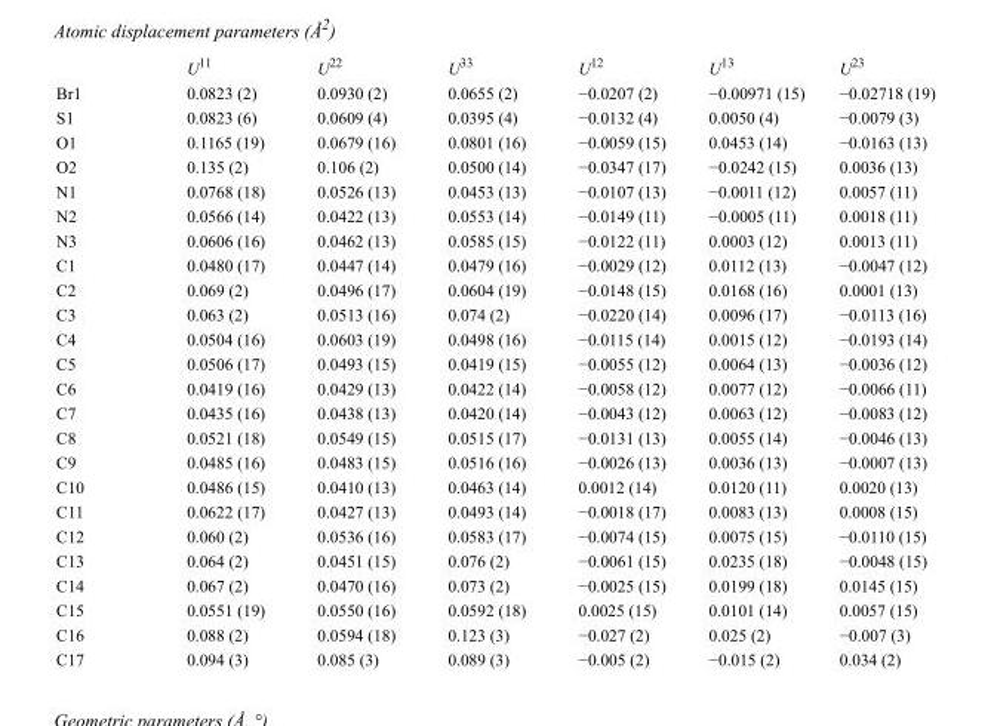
<table><thead><tr><td></td><td>U<sup>11</sup></td><td>U<sup>22</sup></td><td>U<sup>33</sup></td><td>U<sup>12</sup></td><td>U<sup>13</sup></td><td>U<sup>23</sup></td></tr></thead><tbody><tr><td>Br1</td><td>0.0823 (2)</td><td>0.0930 (2)</td><td>0.0655 (2)</td><td>−0.0207 (2)</td><td>−0.00971 (15)</td><td>−0.02718 (19)</td></tr><tr><td>S1</td><td>0.0823 (6)</td><td>0.0609 (4)</td><td>0.0395 (4)</td><td>−0.0132 (4)</td><td>0.0050 (4)</td><td>−0.0079 (3)</td></tr><tr><td>O1</td><td>0.1165 (19)</td><td>0.0679 (16)</td><td>0.0801 (16)</td><td>−0.0059 (15)</td><td>0.0453 (14)</td><td>−0.0163 (13)</td></tr><tr><td>O2</td><td>0.135 (2)</td><td>0.106 (2)</td><td>0.0500 (14)</td><td>−0.0347 (17)</td><td>−0.0242 (15)</td><td>0.0036 (13)</td></tr><tr><td>N1</td><td>0.0768 (18)</td><td>0.0526 (13)</td><td>0.0453 (13)</td><td>−0.0107 (13)</td><td>−0.0011 (12)</td><td>0.0057 (11)</td></tr><tr><td>N2</td><td>0.0566 (14)</td><td>0.0422 (13)</td><td>0.0553 (14)</td><td>−0.0149 (11)</td><td>−0.0005 (11)</td><td>0.0018 (11)</td></tr><tr><td>N3</td><td>0.0606 (16)</td><td>0.0462 (13)</td><td>0.0585 (15)</td><td>−0.0122 (11)</td><td>0.0003 (12)</td><td>0.0013 (11)</td></tr><tr><td>C1</td><td>0.0480 (17)</td><td>0.0447 (14)</td><td>0.0479 (16)</td><td>−0.0029 (12)</td><td>0.0112 (13)</td><td>−0.0047 (12)</td></tr><tr><td>C2</td><td>0.069 (2)</td><td>0.0496 (17)</td><td>0.0604 (19)</td><td>−0.0148 (15)</td><td>0.0168 (16)</td><td>0.0001 (13)</td></tr><tr><td>C3</td><td>0.063 (2)</td><td>0.0513 (16)</td><td>0.074 (2)</td><td>−0.0220 (14)</td><td>0.0096 (17)</td><td>−0.0113 (16)</td></tr><tr><td>C4</td><td>0.0504 (16)</td><td>0.0603 (19)</td><td>0.0498 (16)</td><td>−0.0115 (14)</td><td>0.0015 (12)</td><td>−0.0193 (14)</td></tr><tr><td>C5</td><td>0.0506 (17)</td><td>0.0493 (15)</td><td>0.0419 (15)</td><td>−0.0055 (12)</td><td>0.0064 (13)</td><td>−0.0036 (12)</td></tr><tr><td>C6</td><td>0.0419 (16)</td><td>0.0429 (13)</td><td>0.0422 (14)</td><td>−0.0058 (12)</td><td>0.0077 (12)</td><td>−0.0066 (11)</td></tr><tr><td>C7</td><td>0.0435 (16)</td><td>0.0438 (13)</td><td>0.0420 (14)</td><td>−0.0043 (12)</td><td>0.0063 (12)</td><td>−0.0083 (12)</td></tr><tr><td>C8</td><td>0.0521 (18)</td><td>0.0549 (15)</td><td>0.0515 (17)</td><td>−0.0131 (13)</td><td>0.0055 (14)</td><td>−0.0046 (13)</td></tr><tr><td>C9</td><td>0.0485 (16)</td><td>0.0483 (15)</td><td>0.0516 (16)</td><td>−0.0026 (13)</td><td>0.0036 (13)</td><td>−0.0007 (13)</td></tr><tr><td>C10</td><td>0.0486 (15)</td><td>0.0410 (13)</td><td>0.0463 (14)</td><td>0.0012 (14)</td><td>0.0120 (11)</td><td>0.0020 (13)</td></tr><tr><td>C11</td><td>0.0622 (17)</td><td>0.0427 (13)</td><td>0.0493 (14)</td><td>−0.0018 (17)</td><td>0.0083 (13)</td><td>0.0008 (15)</td></tr><tr><td>C12</td><td>0.060 (2)</td><td>0.0536 (16)</td><td>0.0583 (17)</td><td>−0.0074 (15)</td><td>0.0075 (15)</td><td>−0.0110 (15)</td></tr><tr><td>C13</td><td>0.064 (2)</td><td>0.0451 (15)</td><td>0.076 (2)</td><td>−0.0061 (15)</td><td>0.0235 (18)</td><td>−0.0048 (15)</td></tr><tr><td>C14</td><td>0.067 (2)</td><td>0.0470 (16)</td><td>0.073 (2)</td><td>−0.0025 (15)</td><td>0.0199 (18)</td><td>0.0145 (15)</td></tr><tr><td>C15</td><td>0.0551 (19)</td><td>0.0550 (16)</td><td>0.0592 (18)</td><td>0.0025 (15)</td><td>0.0101 (14)</td><td>0.0057 (15)</td></tr><tr><td>C16</td><td>0.088 (2)</td><td>0.0594 (18)</td><td>0.123 (3)</td><td>−0.027 (2)</td><td>0.025 (2)</td><td>−0.007 (3)</td></tr><tr><td>C17</td><td>0.094 (3)</td><td>0.085 (3)</td><td>0.089 (3)</td><td>−0.005 (2)</td><td>−0.015 (2)</td><td>0.034 (2)</td></tr></tbody></table>